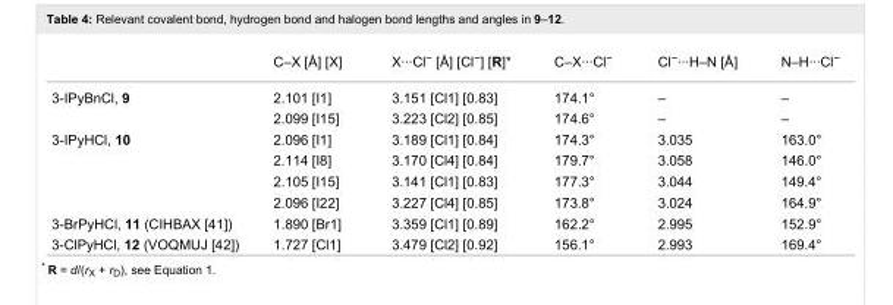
<table><thead><tr><td></td><td>C–X [Å] [X]</td><td>X···Cl<sup>−</sup> [Å] [Cl<sup>−</sup>] [R]*</td><td>C–X···Cl<sup>−</sup></td><td>Cl<sup>−</sup>···H–N [Å]</td><td>N–H···Cl<sup>−</sup></td></tr></thead><tbody><tr><td rowspan="2">3-IPyBnCl, 9</td><td>2.101 [I1]</td><td>3.151 [Cl1] [0.83]</td><td>174.1°</td><td>–</td><td>–</td></tr><tr><td>2.099 [I15]</td><td>3.223 [Cl2] [0.85]</td><td>174.6°</td><td>–</td><td>–</td></tr><tr><td rowspan="4">3-IPyHCl, 10</td><td>2.096 [I1]</td><td>3.189 [Cl1] [0.84]</td><td>174.3°</td><td>3.035</td><td>163.0°</td></tr><tr><td>2.114 [I8]</td><td>3.170 [Cl4] [0.84]</td><td>179.7°</td><td>3.058</td><td>146.0°</td></tr><tr><td>2.105 [I15]</td><td>3.141 [Cl1] [0.83]</td><td>177.3°</td><td>3.044</td><td>149.4°</td></tr><tr><td>2.096 [I22]</td><td>3.227 [Cl4] [0.85]</td><td>173.8°</td><td>3.024</td><td>164.9°</td></tr><tr><td>3-BrPyHCl, 11 (CIHBAX [41])</td><td>1.890 [Br1]</td><td>3.359 [Cl1] [0.89]</td><td>162.2°</td><td>2.995</td><td>152.9°</td></tr><tr><td>3-ClPyHCl, 12 (VOQMUJ [42])</td><td>1.727 [Cl1]</td><td>3.479 [Cl2] [0.92]</td><td>156.1°</td><td>2.993</td><td>169.4°</td></tr></tbody></table>